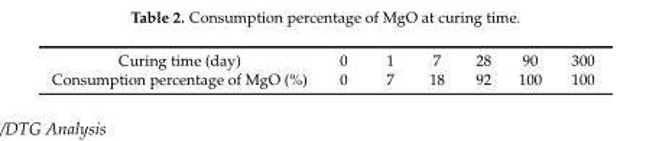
<table><tbody><tr><td>Curing time (day)</td><td>0</td><td>1</td><td>7</td><td>28</td><td>90</td><td>300</td></tr><tr><td>Consumption percentage of MgO (%)</td><td>0</td><td>7</td><td>18</td><td>92</td><td>100</td><td>100</td></tr></tbody></table>